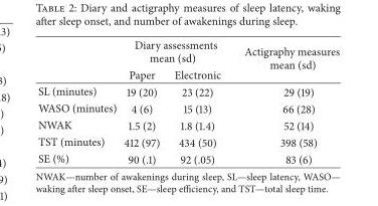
<table><thead><tr><td rowspan="2"></td><td colspan="2">Diary assessments mean (sd)</td><td rowspan="2">Actigraphy measures mean (sd)</td></tr><tr><td>Paper</td><td>Electronic</td></tr></thead><tbody><tr><td>SL (minutes)</td><td>19 (20)</td><td>23 (22)</td><td>29 (19)</td></tr><tr><td>WASO (minutes)</td><td>4 (6)</td><td>15 (13)</td><td>66 (28)</td></tr><tr><td>NWAK</td><td>1.5 (2)</td><td>1.8 (1.4)</td><td>52 (14)</td></tr><tr><td>TST (minutes)</td><td>412 (97)</td><td>434 (50)</td><td>398 (58)</td></tr><tr><td>SE (%)</td><td>90 (.1)</td><td>92 (.05)</td><td>83 (6)</td></tr></tbody></table>